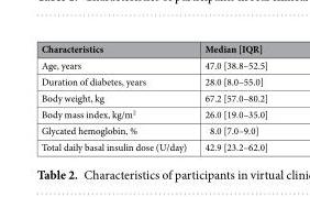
<table><thead><tr><td>Characteristics</td><td>Median [IQR]</td></tr></thead><tbody><tr><td>Age, years</td><td>47.0 [38.8–52.5]</td></tr><tr><td>Duration of diabetes, years</td><td>28.0 [8.0–55.0]</td></tr><tr><td>Body weight, kg</td><td>67.2 [57.0–80.2]</td></tr><tr><td>Body mass index, kg/m<sup>2</sup></td><td>26.0 [19.0–35.0]</td></tr><tr><td>Glycated hemoglobin, %</td><td>8.0 [7.0–9.0]</td></tr><tr><td>Total daily basal insulin dose (U/day)</td><td>42.9 [23.2–62.0]</td></tr></tbody></table>